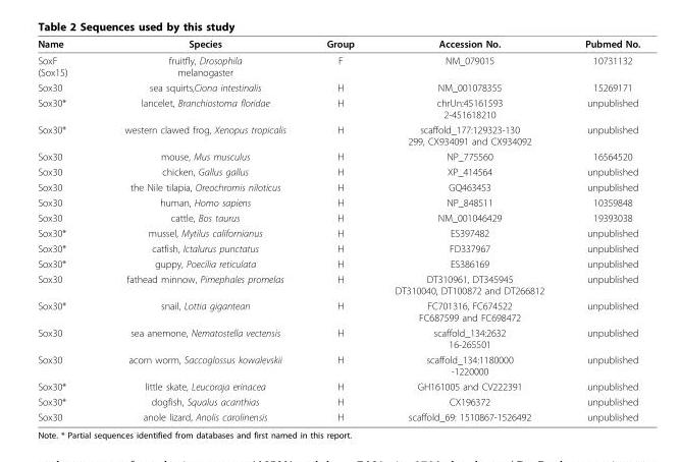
<table><thead><tr><td>Name</td><td>Species</td><td>Group</td><td>Accession No.</td><td>Pubmed No.</td></tr></thead><tbody><tr><td>SoxF (Sox15)</td><td>fruitfly, Drosophila melanogaster</td><td>F</td><td>NM_079015</td><td>10731132</td></tr><tr><td>Sox30</td><td>sea squirts,Ciona intestinalis</td><td>H</td><td>NM_001078355</td><td>15269171</td></tr><tr><td>Sox30*</td><td>lancelet, Branchiostoma floridae</td><td>H</td><td>chrUn:45161593 2-451618210</td><td>unpublished</td></tr><tr><td>Sox30*</td><td>western clawed frog, Xenopus tropicalis</td><td>H</td><td>scaffold_177:129323-130 299, CX934091 and CX934092</td><td>unpublished</td></tr><tr><td>Sox30</td><td>mouse, Mus musculus</td><td>H</td><td>NP_775560</td><td>16564520</td></tr><tr><td>Sox30</td><td>chicken, Gallus gallus</td><td>H</td><td>XP_414564</td><td>unpublished</td></tr><tr><td>Sox30</td><td>the Nile tilapia, Oreochromis niloticus</td><td>H</td><td>GQ463453</td><td>unpublished</td></tr><tr><td>Sox30</td><td>human, Homo sapiens</td><td>H</td><td>NP_848511</td><td>10359848</td></tr><tr><td>Sox30</td><td>cattle, Bos taurus</td><td>H</td><td>NM_001046429</td><td>19393038</td></tr><tr><td>Sox30*</td><td>mussel, Mytilus californianus</td><td>H</td><td>ES397482</td><td>unpublished</td></tr><tr><td>Sox30*</td><td>catfish, Ictalurus punctatus</td><td>H</td><td>FD337967</td><td>unpublished</td></tr><tr><td>Sox30*</td><td>guppy, Poecilia reticulata</td><td>H</td><td>ES386169</td><td>unpublished</td></tr><tr><td>Sox30</td><td>fathead minnow, Pimephales promelas</td><td>H</td><td>DT310961, DT345945 DT310040, DT100872 and DT266812</td><td>unpublished</td></tr><tr><td>Sox30*</td><td>snail, Lottia gigantean</td><td>H</td><td>FC701316, FC674522 FC687599 and FC698472</td><td>unpublished</td></tr><tr><td>Sox30</td><td>sea anemone, Nematostella vectensis</td><td>H</td><td>scaffold_134:2632 16-265501</td><td>unpublished</td></tr><tr><td>Sox30</td><td>acorn worm, Saccoglossus kowalevskii</td><td>H</td><td>scaffold_134:1180000 -1220000</td><td>unpublished</td></tr><tr><td>Sox30*</td><td>little skate, Leucoraja erinacea</td><td>H</td><td>GH161005 and CV222391</td><td>unpublished</td></tr><tr><td>Sox30*</td><td>dogfish, Squalus acanthias</td><td>H</td><td>CX196372</td><td>unpublished</td></tr><tr><td>Sox30</td><td>anole lizard, Anolis carolinensis</td><td>H</td><td>scaffold_69: 1510867-1526492</td><td>unpublished</td></tr></tbody></table>